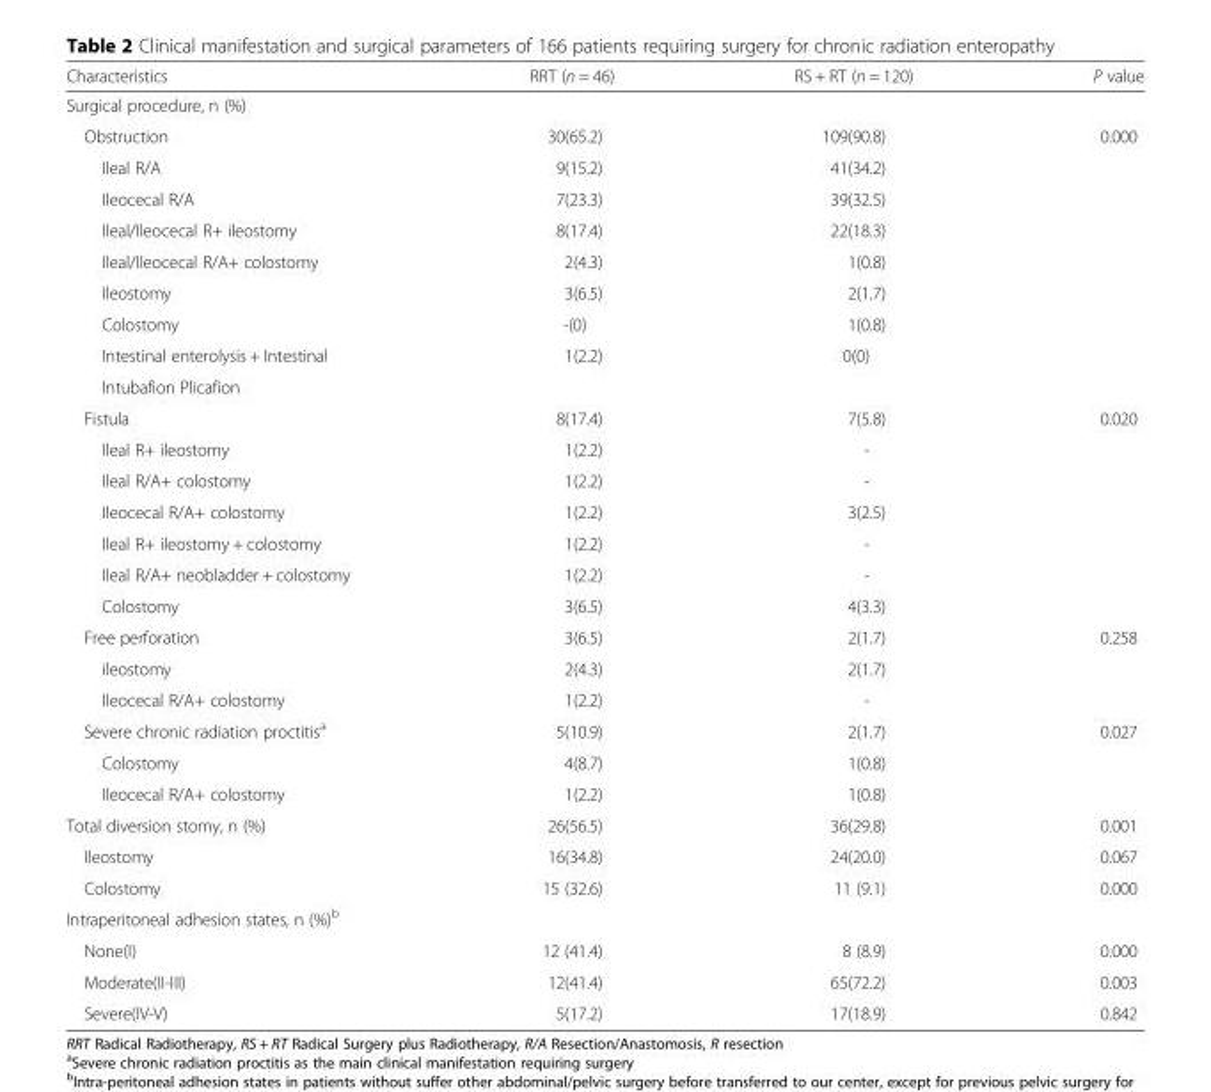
<table><thead><tr><td>Characteristics</td><td>RRT (n = 46)</td><td>RS + RT (n = 120)</td><td>P value</td></tr></thead><tbody><tr><td colspan="4">Surgical procedure, n (%)</td></tr><tr><td>Obstruction</td><td>30(65.2)</td><td>109(90.8)</td><td>0.000</td></tr><tr><td>Ileal R/A</td><td>9(15.2)</td><td>41(34.2)</td><td></td></tr><tr><td>Ileocecal R/A</td><td>7(23.3)</td><td>39(32.5)</td><td></td></tr><tr><td>Ileal/Ileocecal R+ ileostomy</td><td>8(17.4)</td><td>22(18.3)</td><td></td></tr><tr><td>Ileal/Ileocecal R/A+ colostomy</td><td>2(4.3)</td><td>1(0.8)</td><td></td></tr><tr><td>Ileostomy</td><td>3(6.5)</td><td>2(1.7)</td><td></td></tr><tr><td>Colostomy</td><td>-(0)</td><td>1(0.8)</td><td></td></tr><tr><td>Intestinal enterolysis + Intestinal</td><td>1(2.2)</td><td>0(0)</td><td></td></tr><tr><td colspan="4">Intubafion Plicafion</td></tr><tr><td>Fistula</td><td>8(17.4)</td><td>7(5.8)</td><td>0.020</td></tr><tr><td>Ileal R+ ileostomy</td><td>1(2.2)</td><td>-</td><td></td></tr><tr><td>Ileal R/A+ colostomy</td><td>1(2.2)</td><td>-</td><td></td></tr><tr><td>Ileocecal R/A+ colostomy</td><td>1(2.2)</td><td>3(2.5)</td><td></td></tr><tr><td>Ileal R+ ileostomy + colostomy</td><td>1(2.2)</td><td>-</td><td></td></tr><tr><td>Ileal R/A+ neobladder + colostomy</td><td>1(2.2)</td><td>-</td><td></td></tr><tr><td>Colostomy</td><td>3(6.5)</td><td>4(3.3)</td><td></td></tr><tr><td>Free perforation</td><td>3(6.5)</td><td>2(1.7)</td><td>0.258</td></tr><tr><td>ileostomy</td><td>2(4.3)</td><td>2(1.7)</td><td></td></tr><tr><td>Ileocecal R/A+ colostomy</td><td>1(2.2)</td><td>-</td><td></td></tr><tr><td>Severe chronic radiation proctitis<sup>a</sup></td><td>5(10.9)</td><td>2(1.7)</td><td>0.027</td></tr><tr><td>Colostomy</td><td>4(8.7)</td><td>1(0.8)</td><td></td></tr><tr><td>Ileocecal R/A+ colostomy</td><td>1(2.2)</td><td>1(0.8)</td><td></td></tr><tr><td>Total diversion stomy, n (%)</td><td>26(56.5)</td><td>36(29.8)</td><td>0.001</td></tr><tr><td>Ileostomy</td><td>16(34.8)</td><td>24(20.0)</td><td>0.067</td></tr><tr><td>Colostomy</td><td>15 (32.6)</td><td>11 (9.1)</td><td>0.000</td></tr><tr><td colspan="4">Intraperitoneal adhesion states, n (%)<sup>b</sup></td></tr><tr><td>None(I)</td><td>12 (41.4)</td><td>8 (8.9)</td><td>0.000</td></tr><tr><td>Moderate(II-III)</td><td>12(41.4)</td><td>65(72.2)</td><td>0.003</td></tr><tr><td>Severe(IV-V)</td><td>5(17.2)</td><td>17(18.9)</td><td>0.842</td></tr></tbody></table>